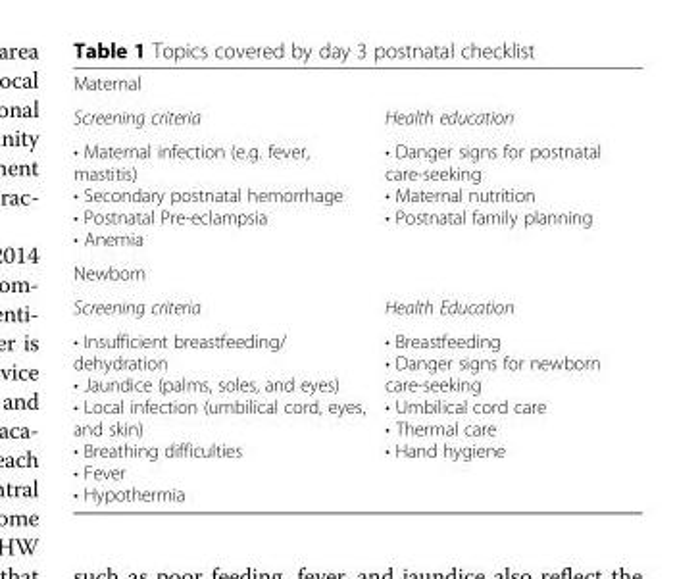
<table><tbody><tr><td colspan="2">Maternal</td></tr><tr><td>Screening criteria</td><td>Health education</td></tr><tr><td>• Maternal infection (e.g. fever, mastitis) • Secondary postnatal hemorrhage • Postnatal Pre-eclampsia • Anemia</td><td>• Danger signs for postnatal care-seeking • Maternal nutrition • Postnatal family planning</td></tr><tr><td colspan="2">Newborn</td></tr><tr><td>Screening criteria</td><td>Health Education</td></tr><tr><td>• Insufficient breastfeeding/ dehydration • Jaundice (palms, soles, and eyes) • Local infection (umbilical cord, eyes, and skin) • Breathing difficulties • Fever • Hypothermia</td><td>• Breastfeeding • Danger signs for newborn care-seeking • Umbilical cord care • Thermal care • Hand hygiene</td></tr></tbody></table>